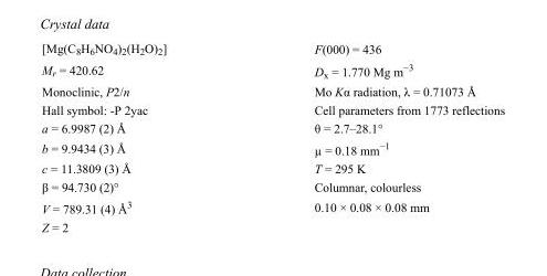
<table><tbody><tr><td>[Mg(C<sub>8</sub>H<sub>6</sub>NO<sub>4</sub>)<sub>2</sub>(H<sub>2</sub>O)<sub>2</sub>]</td><td>F(000) = 436</td></tr><tr><td>M<sub>r</sub> = 420.62</td><td>D<sub>x</sub> = 1.770 Mg m<sup>−3</sup></td></tr><tr><td>Monoclinic, P2/n</td><td>Mo Kα radiation, λ = 0.71073 Å</td></tr><tr><td>Hall symbol: -P 2yac</td><td>Cell parameters from 1773 reflections</td></tr><tr><td>a = 6.9987 (2) Å</td><td>θ = 2.7–28.1°</td></tr><tr><td>b = 9.9434 (3) Å</td><td>µ = 0.18 mm<sup>−1</sup></td></tr><tr><td>c = 11.3809 (3) Å</td><td>T = 295 K</td></tr><tr><td>β = 94.730 (2)°</td><td>Columnar, colourless</td></tr><tr><td>V = 789.31 (4) Å<sup>3</sup></td><td>0.10 × 0.08 × 0.08 mm</td></tr><tr><td>Z = 2</td><td></td></tr></tbody></table>